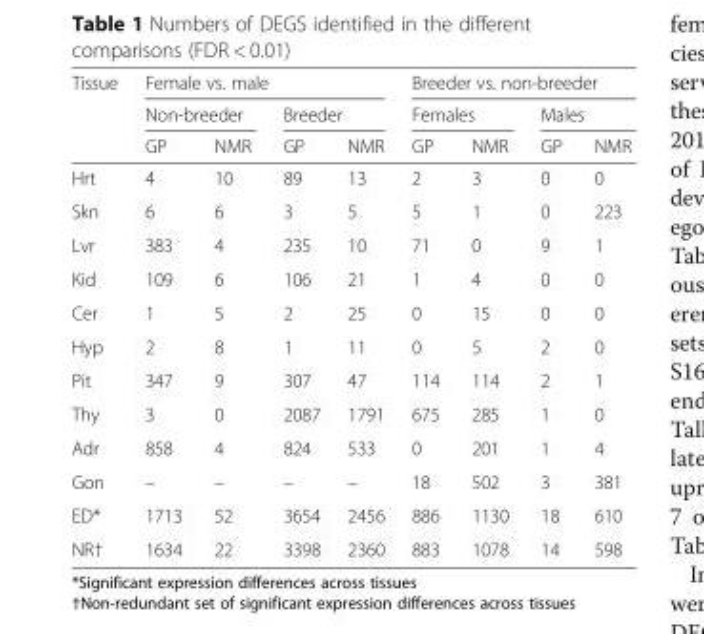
<table><thead><tr><td rowspan="3">Tissue</td><td colspan="4">Female vs. male</td><td colspan="4">Breeder vs. non-breeder</td></tr><tr><td colspan="2">Non-breeder</td><td colspan="2">Breeder</td><td colspan="2">Females</td><td colspan="2">Males</td></tr><tr><td>GP</td><td>NMR</td><td>GP</td><td>NMR</td><td>GP</td><td>NMR</td><td>GP</td><td>NMR</td></tr></thead><tbody><tr><td>Hrt</td><td>4</td><td>10</td><td>89</td><td>13</td><td>2</td><td>3</td><td>0</td><td>0</td></tr><tr><td>Skn</td><td>6</td><td>6</td><td>3</td><td>5</td><td>5</td><td>1</td><td>0</td><td>223</td></tr><tr><td>Lvr</td><td>383</td><td>4</td><td>235</td><td>10</td><td>71</td><td>0</td><td>9</td><td>1</td></tr><tr><td>Kid</td><td>109</td><td>6</td><td>106</td><td>21</td><td>1</td><td>4</td><td>0</td><td>0</td></tr><tr><td>Cer</td><td>1</td><td>5</td><td>2</td><td>25</td><td>0</td><td>15</td><td>0</td><td>0</td></tr><tr><td>Hyp</td><td>2</td><td>8</td><td>1</td><td>11</td><td>0</td><td>5</td><td>2</td><td>0</td></tr><tr><td>Pit</td><td>347</td><td>9</td><td>307</td><td>47</td><td>114</td><td>114</td><td>2</td><td>1</td></tr><tr><td>Thy</td><td>3</td><td>0</td><td>2087</td><td>1791</td><td>675</td><td>285</td><td>1</td><td>0</td></tr><tr><td>Adr</td><td>858</td><td>4</td><td>824</td><td>533</td><td>0</td><td>201</td><td>1</td><td>4</td></tr><tr><td>Gon</td><td>–</td><td>–</td><td>–</td><td>–</td><td>18</td><td>502</td><td>3</td><td>381</td></tr><tr><td>ED*</td><td>1713</td><td>52</td><td>3654</td><td>2456</td><td>886</td><td>1130</td><td>18</td><td>610</td></tr><tr><td>NR†</td><td>1634</td><td>22</td><td>3398</td><td>2360</td><td>883</td><td>1078</td><td>14</td><td>598</td></tr></tbody></table>